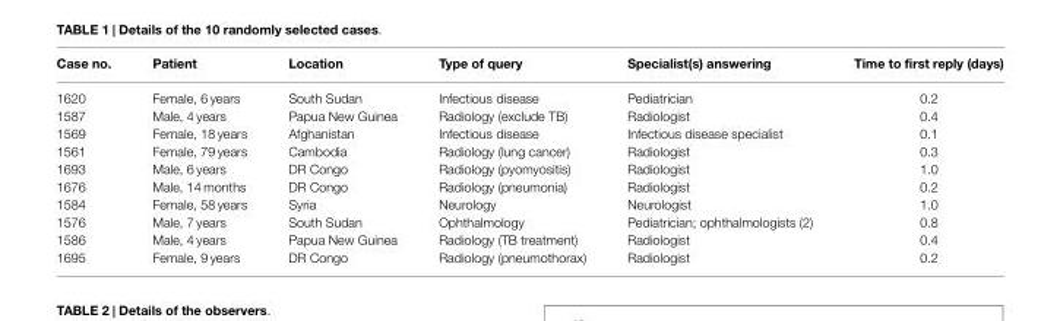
<table><thead><tr><td>Case no.</td><td>Patient</td><td>Location</td><td>Type of query</td><td>Specialist(s) answering</td><td>Time to first reply (days)</td></tr></thead><tbody><tr><td>1620</td><td>Female, 6 years</td><td>South Sudan</td><td>Infectious disease</td><td>Pediatrician</td><td>0.2</td></tr><tr><td>1587</td><td>Male, 4 years</td><td>Papua New Guinea</td><td>Radiology (exclude TB)</td><td>Radiologist</td><td>0.4</td></tr><tr><td>1569</td><td>Female, 18 years</td><td>Afghanistan</td><td>Infectious disease</td><td>Infectious disease specialist</td><td>0.1</td></tr><tr><td>1561</td><td>Female, 79 years</td><td>Cambodia</td><td>Radiology (lung cancer)</td><td>Radiologist</td><td>0.3</td></tr><tr><td>1693</td><td>Male, 6 years</td><td>DR Congo</td><td>Radiology (pyomyositis)</td><td>Radiologist</td><td>1.0</td></tr><tr><td>1676</td><td>Male, 14 months</td><td>DR Congo</td><td>Radiology (pneumonia)</td><td>Radiologist</td><td>0.2</td></tr><tr><td>1584</td><td>Female, 58 years</td><td>Syria</td><td>Neurology</td><td>Neurologist</td><td>1.0</td></tr><tr><td>1576</td><td>Male, 7 years</td><td>South Sudan</td><td>Ophthalmology</td><td>Pediatrician; ophthalmologists (2)</td><td>0.8</td></tr><tr><td>1586</td><td>Male, 4 years</td><td>Papua New Guinea</td><td>Radiology (TB treatment)</td><td>Radiologist</td><td>0.4</td></tr><tr><td>1695</td><td>Female, 9 years</td><td>DR Congo</td><td>Radiology (pneumothorax)</td><td>Radiologist</td><td>0.2</td></tr></tbody></table>